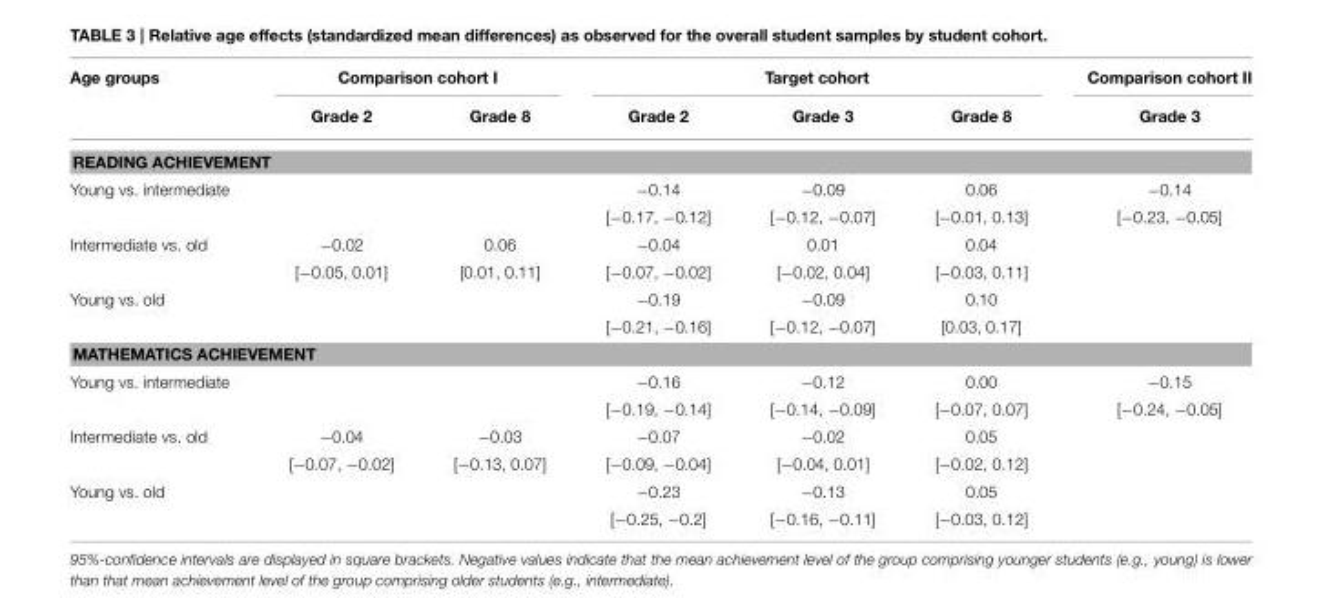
<table><thead><tr><td rowspan="2">Age groups</td><td colspan="2">Comparison cohort I</td><td colspan="3">Target cohort</td><td rowspan="2">Comparison cohort II Grade 3</td></tr><tr><td>Grade 2</td><td>Grade 8</td><td>Grade 2</td><td>Grade 3</td><td>Grade 8</td></tr></thead><tbody><tr><td colspan="7">READING ACHIEVEMENT</td></tr><tr><td rowspan="2">Young vs. intermediate</td><td></td><td></td><td>−0.14</td><td>−0.09</td><td>0.06</td><td>−0.14</td></tr><tr><td></td><td></td><td>[−0.17, −0.12]</td><td>[−0.12, −0.07]</td><td>[−0.01, 0.13]</td><td>[−0.23, −0.05]</td></tr><tr><td rowspan="2">Intermediate vs. old</td><td>−0.02</td><td>0.06</td><td>−0.04</td><td>0.01</td><td>0.04</td><td></td></tr><tr><td>[−0.05, 0.01]</td><td>[0.01, 0.11]</td><td>[−0.07, −0.02]</td><td>[−0.02, 0.04]</td><td>[−0.03, 0.11]</td><td></td></tr><tr><td rowspan="2">Young vs. old</td><td></td><td></td><td>−0.19</td><td>−0.09</td><td>0.10</td><td></td></tr><tr><td></td><td></td><td>[−0.21, −0.16]</td><td>[−0.12, −0.07]</td><td>[0.03, 0.17]</td><td></td></tr><tr><td colspan="7">MATHEMATICS ACHIEVEMENT</td></tr><tr><td rowspan="2">Young vs. intermediate</td><td></td><td></td><td>−0.16</td><td>−0.12</td><td>0.00</td><td>−0.15</td></tr><tr><td></td><td></td><td>[−0.19, −0.14]</td><td>[−0.14, −0.09]</td><td>[−0.07, 0.07]</td><td>[−0.24, −0.05]</td></tr><tr><td rowspan="2">Intermediate vs. old</td><td>−0.04</td><td>−0.03</td><td>−0.07</td><td>−0.02</td><td>0.05</td><td></td></tr><tr><td>[−0.07, −0.02]</td><td>[−0.13, 0.07]</td><td>[−0.09, −0.04]</td><td>[−0.04, 0.01]</td><td>[−0.02, 0.12]</td><td></td></tr><tr><td rowspan="2">Young vs. old</td><td></td><td></td><td>−0.23</td><td>−0.13</td><td>0.05</td><td></td></tr><tr><td></td><td></td><td>[−0.25, −0.2]</td><td>[−0.16, −0.11]</td><td>[−0.03, 0.12]</td><td></td></tr></tbody></table>